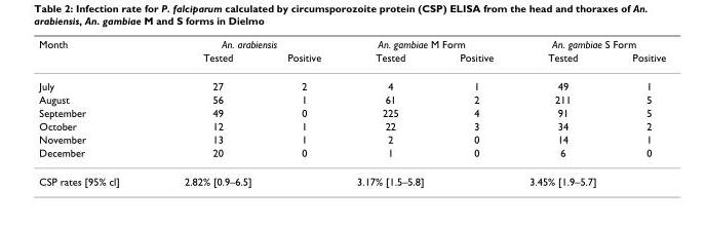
<table><thead><tr><td rowspan="2">Month</td><td colspan="2">An. arabiensis</td><td colspan="2">An. gambiae M Form</td><td colspan="2">An. gambiae S Form</td></tr><tr><td>Tested</td><td>Positive</td><td>Tested</td><td>Positive</td><td>Tested</td><td>Positive</td></tr></thead><tbody><tr><td>July</td><td>27</td><td>2</td><td>4</td><td>1</td><td>49</td><td>1</td></tr><tr><td>August</td><td>56</td><td>1</td><td>61</td><td>2</td><td>211</td><td>5</td></tr><tr><td>September</td><td>49</td><td>0</td><td>225</td><td>4</td><td>91</td><td>5</td></tr><tr><td>October</td><td>12</td><td>1</td><td>22</td><td>3</td><td>34</td><td>2</td></tr><tr><td>November</td><td>13</td><td>1</td><td>2</td><td>0</td><td>14</td><td>1</td></tr><tr><td>December</td><td>20</td><td>0</td><td>1</td><td>0</td><td>6</td><td>0</td></tr><tr><td>CSP rates [95% cl]</td><td>2.82% [0.9–6.5]</td><td></td><td>3.17% [1.5–5.8]</td><td></td><td>3.45% [1.9–5.7]</td><td></td></tr></tbody></table>